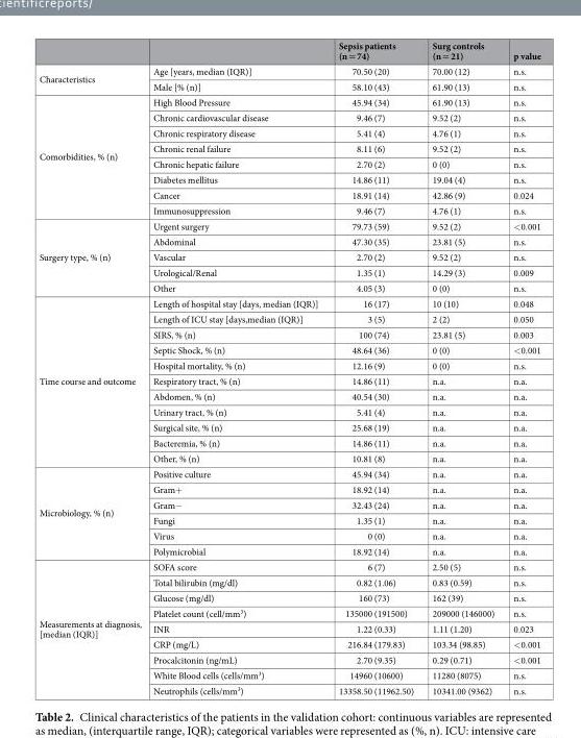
<table><thead><tr><td></td><td></td><td>Sepsis patients (n = 74)</td><td>Surg controls (n = 21)</td><td>p value</td></tr></thead><tbody><tr><td rowspan="2">Characteristics</td><td>Age [years, median (IQR)]</td><td>70.50 (20)</td><td>70.00 (12)</td><td>n.s.</td></tr><tr><td>Male [% (n)]</td><td>58.10 (43)</td><td>61.90 (13)</td><td>n.s.</td></tr><tr><td rowspan="8">Comorbidities, % (n)</td><td>High Blood Pressure</td><td>45.94 (34)</td><td>61.90 (13)</td><td>n.s.</td></tr><tr><td>Chronic cardiovascular disease</td><td>9.46 (7)</td><td>9.52 (2)</td><td>n.s.</td></tr><tr><td>Chronic respiratory disease</td><td>5.41 (4)</td><td>4.76 (1)</td><td>n.s.</td></tr><tr><td>Chronic renal failure</td><td>8.11 (6)</td><td>9.52 (2)</td><td>n.s.</td></tr><tr><td>Chronic hepatic failure</td><td>2.70 (2)</td><td>0 (0)</td><td>n.s.</td></tr><tr><td>Diabetes mellitus</td><td>14.86 (11)</td><td>19.04 (4)</td><td>n.s.</td></tr><tr><td>Cancer</td><td>18.91 (14)</td><td>42.86 (9)</td><td>0.024</td></tr><tr><td>Immunosuppression</td><td>9.46 (7)</td><td>4.76 (1)</td><td>n.s.</td></tr><tr><td rowspan="5">Surgery type, % (n)</td><td>Urgent surgery</td><td>79.73 (59)</td><td>9.52 (2)</td><td>&lt;0.001</td></tr><tr><td>Abdominal</td><td>47.30 (35)</td><td>23.81 (5)</td><td>n.s.</td></tr><tr><td>Vascular</td><td>2.70 (2)</td><td>9.52 (2)</td><td>n.s.</td></tr><tr><td>Urological/Renal</td><td>1.35 (1)</td><td>14.29 (3)</td><td>0.009</td></tr><tr><td>Other</td><td>4.05 (3)</td><td>0 (0)</td><td>n.s.</td></tr><tr><td rowspan="11">Time course and outcome</td><td>Length of hospital stay [days, median (IQR)]</td><td>16 (17)</td><td>10 (10)</td><td>0.048</td></tr><tr><td>Length of ICU stay [days,median (IQR)]</td><td>3 (5)</td><td>2 (2)</td><td>0.050</td></tr><tr><td>SIRS, % (n)</td><td>100 (74)</td><td>23.81 (5)</td><td>0.003</td></tr><tr><td>Septic Shock, % (n)</td><td>48.64 (36)</td><td>0 (0)</td><td>&lt;0.001</td></tr><tr><td>Hospital mortality, % (n)</td><td>12.16 (9)</td><td>0 (0)</td><td>n.s.</td></tr><tr><td>Respiratory tract, % (n)</td><td>14.86 (11)</td><td>n.a.</td><td>n.a.</td></tr><tr><td>Abdomen, % (n)</td><td>40.54 (30)</td><td>n.a.</td><td>n.a.</td></tr><tr><td>Urinary tract, % (n)</td><td>5.41 (4)</td><td>n.a.</td><td>n.a.</td></tr><tr><td>Surgical site, % (n)</td><td>25.68 (19)</td><td>n.a.</td><td>n.a.</td></tr><tr><td>Bacteremia, % (n)</td><td>14.86 (11)</td><td>n.a.</td><td>n.a.</td></tr><tr><td>Other, % (n)</td><td>10.81 (8)</td><td>n.a.</td><td>n.a.</td></tr><tr><td rowspan="6">Microbiology, % (n)</td><td>Positive culture</td><td>45.94 (34)</td><td>n.a.</td><td>n.a.</td></tr><tr><td>Gram+</td><td>18.92 (14)</td><td>n.a.</td><td>n.a.</td></tr><tr><td>Gram−</td><td>32.43 (24)</td><td>n.a.</td><td>n.a.</td></tr><tr><td>Fungi</td><td>1.35 (1)</td><td>n.a.</td><td>n.a.</td></tr><tr><td>Virus</td><td>0 (0)</td><td>n.a.</td><td>n.a.</td></tr><tr><td>Polymicrobial</td><td>18.92 (14)</td><td>n.a.</td><td>n.a.</td></tr><tr><td rowspan="9">Measurements at diagnosis, [median (IQR)]</td><td>SOFA score</td><td>6 (7)</td><td>2.50 (5)</td><td>n.s.</td></tr><tr><td>Total bilirubin (mg/dl)</td><td>0.82 (1.06)</td><td>0.83 (0.59)</td><td>n.s.</td></tr><tr><td>Glucose (mg/dl)</td><td>160 (73)</td><td>162 (39)</td><td>n.s.</td></tr><tr><td>Platelet count (cell/mm<sup>3</sup>)</td><td>135000 (191500)</td><td>209000 (146000)</td><td>n.s.</td></tr><tr><td>INR</td><td>1.22 (0.33)</td><td>1.11 (1.20)</td><td>0.023</td></tr><tr><td>CRP (mg/L)</td><td>216.84 (179.83)</td><td>103.34 (98.85)</td><td>&lt;0.001</td></tr><tr><td>Procalcitonin (ng/mL)</td><td>2.70 (9.35)</td><td>0.29 (0.71)</td><td>&lt;0.001</td></tr><tr><td>White Blood cells (cells/mm<sup>3</sup>)</td><td>14960 (10600)</td><td>11280 (8075)</td><td>n.s.</td></tr><tr><td>Neutrophils (cells/mm<sup>3</sup>)</td><td>13358.50 (11962.50)</td><td>10341.00 (9362)</td><td>n.s.</td></tr></tbody></table>